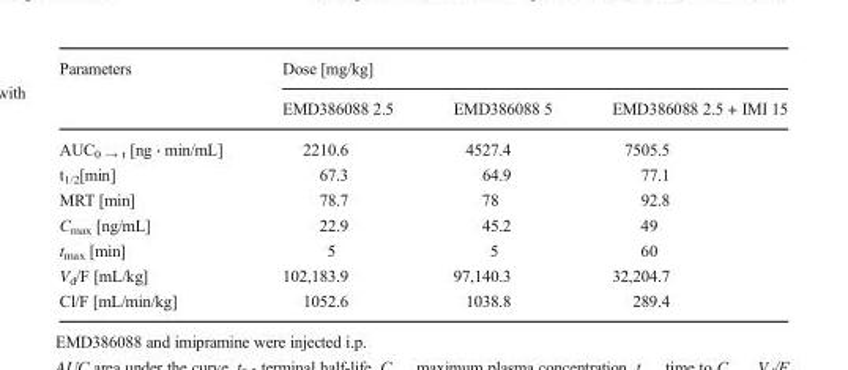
<table><thead><tr><td rowspan="2">Parameters</td><td colspan="3">Dose [mg/kg]</td></tr><tr><td>EMD386088 2.5</td><td>EMD386088 5</td><td>EMD386088 2.5 + IMI 15</td></tr></thead><tbody><tr><td>AUC<sub>0 → t</sub> [ng ⋅ min/mL]</td><td>2210.6</td><td>4527.4</td><td>7505.5</td></tr><tr><td>t<sub>1/2</sub>[min]</td><td>67.3</td><td>64.9</td><td>77.1</td></tr><tr><td>MRT [min]</td><td>78.7</td><td>78</td><td>92.8</td></tr><tr><td>C<sub>max</sub> [ng/mL]</td><td>22.9</td><td>45.2</td><td>49</td></tr><tr><td>t<sub>max</sub> [min]</td><td>5</td><td>5</td><td>60</td></tr><tr><td>V<sub>d</sub>/F [mL/kg]</td><td>102,183.9</td><td>97,140.3</td><td>32,204.7</td></tr><tr><td>Cl/F [mL/min/kg]</td><td>1052.6</td><td>1038.8</td><td>289.4</td></tr></tbody></table>